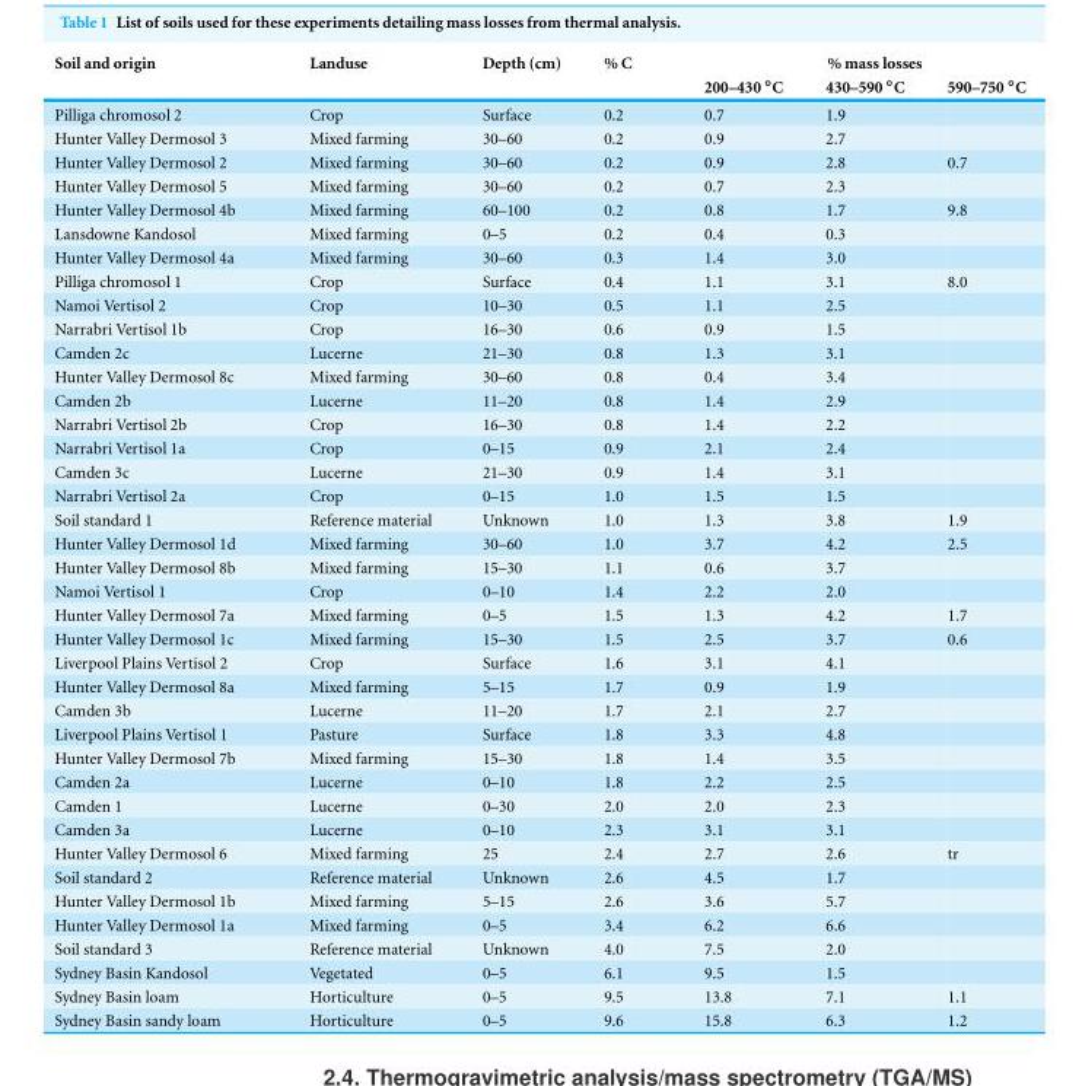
<table><thead><tr><td rowspan="2">Soil and origin</td><td rowspan="2">Landuse</td><td rowspan="2">Depth (cm)</td><td rowspan="2">% C</td><td colspan="3">% mass losses</td></tr><tr><td>200–430 ◦C</td><td>430–590 ◦C</td><td>590–750 ◦C</td></tr></thead><tbody><tr><td>Pilliga chromosol 2</td><td>Crop</td><td>Surface</td><td>0.2</td><td>0.7</td><td>1.9</td><td></td></tr><tr><td>Hunter Valley Dermosol 3</td><td>Mixed farming</td><td>30–60</td><td>0.2</td><td>0.9</td><td>2.7</td><td></td></tr><tr><td>Hunter Valley Dermosol 2</td><td>Mixed farming</td><td>30–60</td><td>0.2</td><td>0.9</td><td>2.8</td><td>0.7</td></tr><tr><td>Hunter Valley Dermosol 5</td><td>Mixed farming</td><td>30–60</td><td>0.2</td><td>0.7</td><td>2.3</td><td></td></tr><tr><td>Hunter Valley Dermosol 4b</td><td>Mixed farming</td><td>60–100</td><td>0.2</td><td>0.8</td><td>1.7</td><td>9.8</td></tr><tr><td>Lansdowne Kandosol</td><td>Mixed farming</td><td>0–5</td><td>0.2</td><td>0.4</td><td>0.3</td><td></td></tr><tr><td>Hunter Valley Dermosol 4a</td><td>Mixed farming</td><td>30–60</td><td>0.3</td><td>1.4</td><td>3.0</td><td></td></tr><tr><td>Pilliga chromosol 1</td><td>Crop</td><td>Surface</td><td>0.4</td><td>1.1</td><td>3.1</td><td>8.0</td></tr><tr><td>Namoi Vertisol 2</td><td>Crop</td><td>10–30</td><td>0.5</td><td>1.1</td><td>2.5</td><td></td></tr><tr><td>Narrabri Vertisol 1b</td><td>Crop</td><td>16–30</td><td>0.6</td><td>0.9</td><td>1.5</td><td></td></tr><tr><td>Camden 2c</td><td>Lucerne</td><td>21–30</td><td>0.8</td><td>1.3</td><td>3.1</td><td></td></tr><tr><td>Hunter Valley Dermosol 8c</td><td>Mixed farming</td><td>30–60</td><td>0.8</td><td>0.4</td><td>3.4</td><td></td></tr><tr><td>Camden 2b</td><td>Lucerne</td><td>11–20</td><td>0.8</td><td>1.4</td><td>2.9</td><td></td></tr><tr><td>Narrabri Vertisol 2b</td><td>Crop</td><td>16–30</td><td>0.8</td><td>1.4</td><td>2.2</td><td></td></tr><tr><td>Narrabri Vertisol 1a</td><td>Crop</td><td>0–15</td><td>0.9</td><td>2.1</td><td>2.4</td><td></td></tr><tr><td>Camden 3c</td><td>Lucerne</td><td>21–30</td><td>0.9</td><td>1.4</td><td>3.1</td><td></td></tr><tr><td>Narrabri Vertisol 2a</td><td>Crop</td><td>0–15</td><td>1.0</td><td>1.5</td><td>1.5</td><td></td></tr><tr><td>Soil standard 1</td><td>Reference material</td><td>Unknown</td><td>1.0</td><td>1.3</td><td>3.8</td><td>1.9</td></tr><tr><td>Hunter Valley Dermosol 1d</td><td>Mixed farming</td><td>30–60</td><td>1.0</td><td>3.7</td><td>4.2</td><td>2.5</td></tr><tr><td>Hunter Valley Dermosol 8b</td><td>Mixed farming</td><td>15–30</td><td>1.1</td><td>0.6</td><td>3.7</td><td></td></tr><tr><td>Namoi Vertisol 1</td><td>Crop</td><td>0–10</td><td>1.4</td><td>2.2</td><td>2.0</td><td></td></tr><tr><td>Hunter Valley Dermosol 7a</td><td>Mixed farming</td><td>0–5</td><td>1.5</td><td>1.3</td><td>4.2</td><td>1.7</td></tr><tr><td>Hunter Valley Dermosol 1c</td><td>Mixed farming</td><td>15–30</td><td>1.5</td><td>2.5</td><td>3.7</td><td>0.6</td></tr><tr><td>Liverpool Plains Vertisol 2</td><td>Crop</td><td>Surface</td><td>1.6</td><td>3.1</td><td>4.1</td><td></td></tr><tr><td>Hunter Valley Dermosol 8a</td><td>Mixed farming</td><td>5–15</td><td>1.7</td><td>0.9</td><td>1.9</td><td></td></tr><tr><td>Camden 3b</td><td>Lucerne</td><td>11–20</td><td>1.7</td><td>2.1</td><td>2.7</td><td></td></tr><tr><td>Liverpool Plains Vertisol 1</td><td>Pasture</td><td>Surface</td><td>1.8</td><td>3.3</td><td>4.8</td><td></td></tr><tr><td>Hunter Valley Dermosol 7b</td><td>Mixed farming</td><td>15–30</td><td>1.8</td><td>1.4</td><td>3.5</td><td></td></tr><tr><td>Camden 2a</td><td>Lucerne</td><td>0–10</td><td>1.8</td><td>2.2</td><td>2.5</td><td></td></tr><tr><td>Camden 1</td><td>Lucerne</td><td>0–30</td><td>2.0</td><td>2.0</td><td>2.3</td><td></td></tr><tr><td>Camden 3a</td><td>Lucerne</td><td>0–10</td><td>2.3</td><td>3.1</td><td>3.1</td><td></td></tr><tr><td>Hunter Valley Dermosol 6</td><td>Mixed farming</td><td>25</td><td>2.4</td><td>2.7</td><td>2.6</td><td>tr</td></tr><tr><td>Soil standard 2</td><td>Reference material</td><td>Unknown</td><td>2.6</td><td>4.5</td><td>1.7</td><td></td></tr><tr><td>Hunter Valley Dermosol 1b</td><td>Mixed farming</td><td>5–15</td><td>2.6</td><td>3.6</td><td>5.7</td><td></td></tr><tr><td>Hunter Valley Dermosol 1a</td><td>Mixed farming</td><td>0–5</td><td>3.4</td><td>6.2</td><td>6.6</td><td></td></tr><tr><td>Soil standard 3</td><td>Reference material</td><td>Unknown</td><td>4.0</td><td>7.5</td><td>2.0</td><td></td></tr><tr><td>Sydney Basin Kandosol</td><td>Vegetated</td><td>0–5</td><td>6.1</td><td>9.5</td><td>1.5</td><td></td></tr><tr><td>Sydney Basin loam</td><td>Horticulture</td><td>0–5</td><td>9.5</td><td>13.8</td><td>7.1</td><td>1.1</td></tr><tr><td>Sydney Basin sandy loam</td><td>Horticulture</td><td>0–5</td><td>9.6</td><td>15.8</td><td>6.3</td><td>1.2</td></tr></tbody></table>